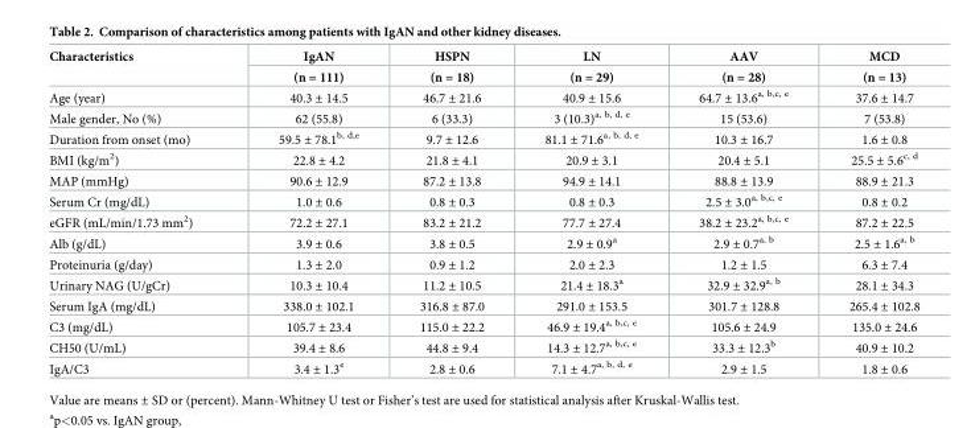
<table><thead><tr><td rowspan="2">Characteristics</td><td rowspan="2">IgAN (n = 111)</td><td rowspan="2">HSPN (n = 18)</td><td rowspan="2">LN (n = 29)</td><td rowspan="2">AAV (n = 28)</td><td rowspan="2">MCD (n = 13)</td></tr><tr></tr></thead><tbody><tr><td>Age (year)</td><td>40.3 ± 14.5</td><td>46.7 ± 21.6</td><td>40.9 ± 15.6</td><td>64.7 ± 13.6<sup>a, b,c, e</sup></td><td>37.6 ± 14.7</td></tr><tr><td>Male gender, No (%)</td><td>62 (55.8)</td><td>6 (33.3)</td><td>3 (10.3)<sup>a, b, d, e</sup></td><td>15 (53.6)</td><td>7 (53.8)</td></tr><tr><td>Duration from onset (mo)</td><td>59.5 ± 78.1<sup>b, d,e</sup></td><td>9.7 ± 12.6</td><td>81.1 ± 71.6<sup>a, b, d, e</sup></td><td>10.3 ± 16.7</td><td>1.6 ± 0.8</td></tr><tr><td>BMI (kg/m<sup>2</sup>)</td><td>22.8 ± 4.2</td><td>21.8 ± 4.1</td><td>20.9 ± 3.1</td><td>20.4 ± 5.1</td><td>25.5 ± 5.6<sup>c, d</sup></td></tr><tr><td>MAP (mmHg)</td><td>90.6 ± 12.9</td><td>87.2 ± 13.8</td><td>94.9 ± 14.1</td><td>88.8 ± 13.9</td><td>88.9 ± 21.3</td></tr><tr><td>Serum Cr (mg/dL)</td><td>1.0 ± 0.6</td><td>0.8 ± 0.3</td><td>0.8 ± 0.3</td><td>2.5 ± 3.0<sup>a, b,c, e</sup></td><td>0.8 ± 0.2</td></tr><tr><td>eGFR (mL/min/1.73 mm<sup>2</sup>)</td><td>72.2 ± 27.1</td><td>83.2 ± 21.2</td><td>77.7 ± 27.4</td><td>38.2 ± 23.2<sup>a, b,c, e</sup></td><td>87.2 ± 22.5</td></tr><tr><td>Alb (g/dL)</td><td>3.9 ± 0.6</td><td>3.8 ± 0.5</td><td>2.9 ± 0.9<sup>a</sup></td><td>2.9 ± 0.7<sup>a, b</sup></td><td>2.5 ± 1.6<sup>a, b</sup></td></tr><tr><td>Proteinuria (g/day)</td><td>1.3 ± 2.0</td><td>0.9 ± 1.2</td><td>2.0 ± 2.3</td><td>1.2 ± 1.5</td><td>6.3 ± 7.4</td></tr><tr><td>Urinary NAG (U/gCr)</td><td>10.3 ± 10.4</td><td>11.2 ± 10.5</td><td>21.4 ± 18.3<sup>a</sup></td><td>32.9 ± 32.9<sup>a, b</sup></td><td>28.1 ± 34.3</td></tr><tr><td>Serum IgA (mg/dL)</td><td>338.0 ± 102.1</td><td>316.8 ± 87.0</td><td>291.0 ± 153.5</td><td>301.7 ± 128.8</td><td>265.4 ± 102.8</td></tr><tr><td>C3 (mg/dL)</td><td>105.7 ± 23.4</td><td>115.0 ± 22.2</td><td>46.9 ± 19.4<sup>a, b,c, e</sup></td><td>105.6 ± 24.9</td><td>135.0 ± 24.6</td></tr><tr><td>CH50 (U/mL)</td><td>39.4 ± 8.6</td><td>44.8 ± 9.4</td><td>14.3 ± 12.7<sup>a, b,c, e</sup></td><td>33.3 ± 12.3<sup>b</sup></td><td>40.9 ± 10.2</td></tr><tr><td>IgA/C3</td><td>3.4 ± 1.3<sup>e</sup></td><td>2.8 ± 0.6</td><td>7.1 ± 4.7<sup>a, b, d, e</sup></td><td>2.9 ± 1.5</td><td>1.8 ± 0.6</td></tr></tbody></table>